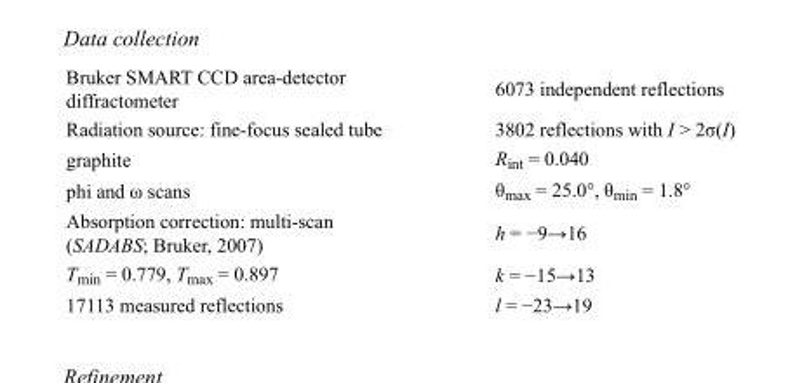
<table><tbody><tr><td>Bruker SMART CCD area-detector diffractometer</td><td>6073 independent reflections</td></tr><tr><td>Radiation source: fine-focus sealed tube</td><td>3802 reflections with I &gt; 2σ(I)</td></tr><tr><td>graphite</td><td>R<sub>int</sub> = 0.040</td></tr><tr><td>phi and ω scans</td><td>θ<sub>max</sub> = 25.0°, θ<sub>min</sub> = 1.8°</td></tr><tr><td>Absorption correction: multi-scan (SADABS; Bruker, 2007)</td><td>h = −9→16</td></tr><tr><td>T<sub>min</sub> = 0.779, T<sub>max</sub> = 0.897</td><td>k = −15→13</td></tr><tr><td>17113 measured reflections</td><td>l = −23→19</td></tr></tbody></table>